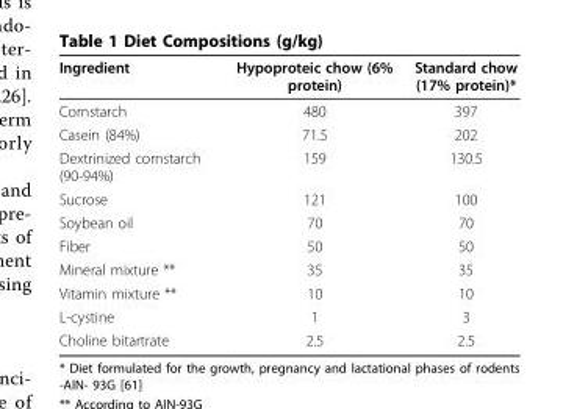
<table><thead><tr><td>Ingredient</td><td>Hypoproteic chow (6% protein)</td><td>Standard chow (17% protein)*</td></tr></thead><tbody><tr><td>Cornstarch</td><td>480</td><td>397</td></tr><tr><td>Casein (84%)</td><td>71.5</td><td>202</td></tr><tr><td>Dextrinized cornstarch (90-94%)</td><td>159</td><td>130.5</td></tr><tr><td>Sucrose</td><td>121</td><td>100</td></tr><tr><td>Soybean oil</td><td>70</td><td>70</td></tr><tr><td>Fiber</td><td>50</td><td>50</td></tr><tr><td>Mineral mixture **</td><td>35</td><td>35</td></tr><tr><td>Vitamin mixture **</td><td>10</td><td>10</td></tr><tr><td>L-cystine</td><td>1</td><td>3</td></tr><tr><td>Choline bitartrate</td><td>2.5</td><td>2.5</td></tr></tbody></table>